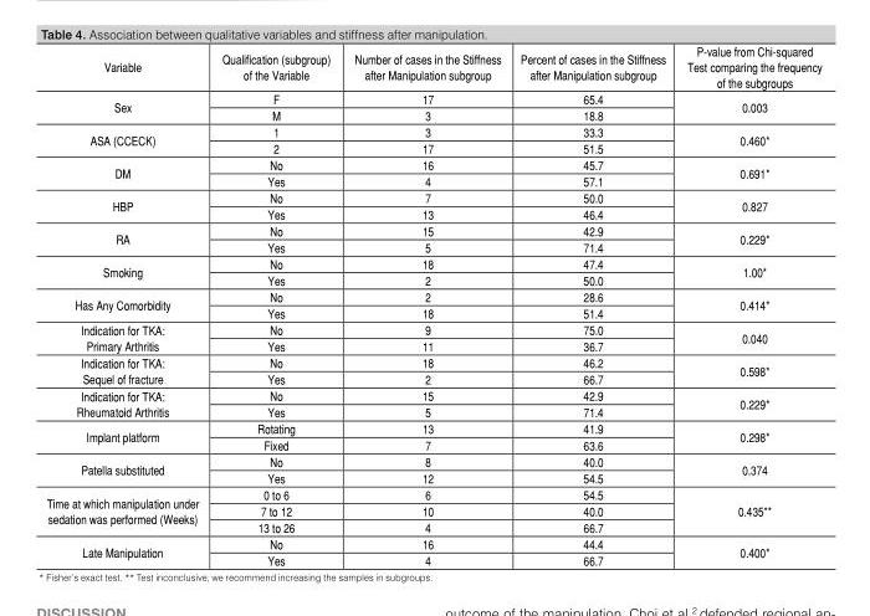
<table><tbody><tr><td>Variable</td><td>Qualification (subgroup) of the Variable</td><td>Number of cases in the Stiffness after Manipulation subgroup</td><td>Percent of cases in the Stiffness after Manipulation subgroup</td><td>P-value from Chi-squared Test comparing the frequency of the subgroups</td></tr><tr><td rowspan="2">Sex</td><td>F</td><td>17</td><td>65.4</td><td rowspan="2">0.003</td></tr><tr><td>M</td><td>3</td><td>18.8</td></tr><tr><td rowspan="2">ASA (CCECK)</td><td>1</td><td>3</td><td>33.3</td><td rowspan="2">0.460*</td></tr><tr><td>2</td><td>17</td><td>51.5</td></tr><tr><td rowspan="2">DM</td><td>No</td><td>16</td><td>45.7</td><td rowspan="2">0.691*</td></tr><tr><td>Yes</td><td>4</td><td>57.1</td></tr><tr><td rowspan="2">HBP</td><td>No</td><td>7</td><td>50.0</td><td rowspan="2">0.827</td></tr><tr><td>Yes</td><td>13</td><td>46.4</td></tr><tr><td rowspan="2">RA</td><td>No</td><td>15</td><td>42.9</td><td rowspan="2">0.229*</td></tr><tr><td>Yes</td><td>5</td><td>71.4</td></tr><tr><td rowspan="2">Smoking</td><td>No</td><td>18</td><td>47.4</td><td rowspan="2">1.00*</td></tr><tr><td>Yes</td><td>2</td><td>50.0</td></tr><tr><td rowspan="2">Has Any Comorbidity</td><td>No</td><td>2</td><td>28.6</td><td rowspan="2">0.414*</td></tr><tr><td>Yes</td><td>18</td><td>51.4</td></tr><tr><td rowspan="2">Indication for TKA: Primary Arthritis</td><td>No</td><td>9</td><td>75.0</td><td rowspan="2">0.040</td></tr><tr><td>Yes</td><td>11</td><td>36.7</td></tr><tr><td rowspan="2">Indication for TKA: Sequel of fracture</td><td>No</td><td>18</td><td>46.2</td><td rowspan="2">0.598*</td></tr><tr><td>Yes</td><td>2</td><td>66.7</td></tr><tr><td rowspan="2">Indication for TKA: Rheumatoid Arthritis</td><td>No</td><td>15</td><td>42.9</td><td rowspan="2">0.229*</td></tr><tr><td>Yes</td><td>5</td><td>71.4</td></tr><tr><td rowspan="2">Implant platform</td><td>Rotating</td><td>13</td><td>41.9</td><td rowspan="2">0.298*</td></tr><tr><td>Fixed</td><td>7</td><td>63.6</td></tr><tr><td rowspan="2">Patella substituted</td><td>No</td><td>8</td><td>40.0</td><td rowspan="2">0.374</td></tr><tr><td>Yes</td><td>12</td><td>54.5</td></tr><tr><td rowspan="3">Time at which manipulation under sedation was performed (Weeks)</td><td>0 to 6</td><td>6</td><td>54.5</td><td rowspan="3">0.435**</td></tr><tr><td>7 to 12</td><td>10</td><td>40.0</td></tr><tr><td>13 to 26</td><td>4</td><td>66.7</td></tr><tr><td rowspan="2">Late Manipulation</td><td>No</td><td>16</td><td>44.4</td><td rowspan="2">0.400*</td></tr><tr><td>Yes</td><td>4</td><td>66.7</td></tr></tbody></table>